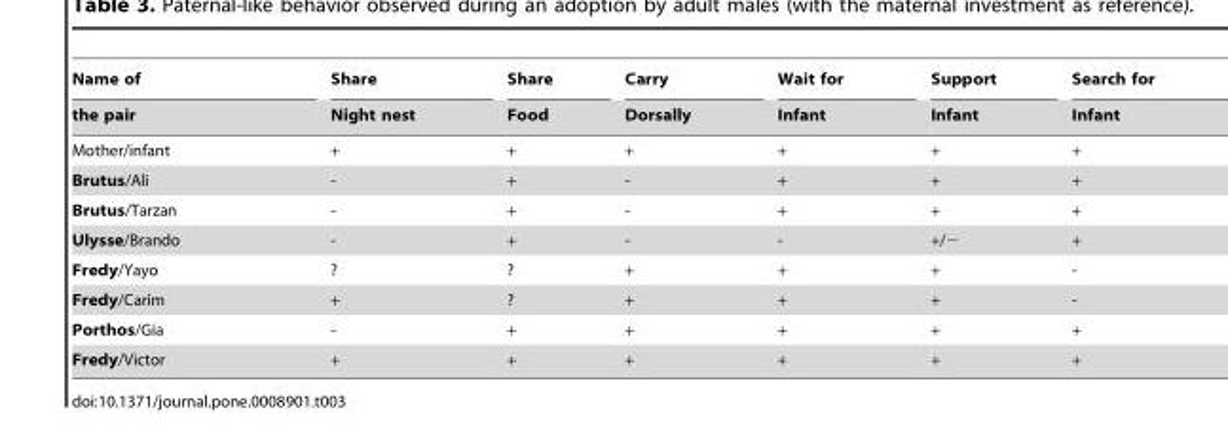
<table><thead><tr><td rowspan="2">Name of the pair</td><td rowspan="2">Share Night nest</td><td rowspan="2">Share Food</td><td rowspan="2">Carry Dorsally</td><td rowspan="2">Wait for Infant</td><td rowspan="2">Support Infant</td><td rowspan="2">Search for Infant</td></tr><tr></tr></thead><tbody><tr><td>Mother/infant</td><td>+</td><td>+</td><td>+</td><td>+</td><td>+</td><td>+</td></tr><tr><td>Brutus/Ali</td><td>-</td><td>+</td><td>-</td><td>+</td><td>+</td><td>+</td></tr><tr><td>Brutus/Tarzan</td><td>-</td><td>+</td><td>-</td><td>+</td><td>+</td><td>+</td></tr><tr><td>Ulysse/Brando</td><td>-</td><td>+</td><td>-</td><td>-</td><td>+/−</td><td>+</td></tr><tr><td>Fredy/Yayo</td><td>?</td><td>?</td><td>+</td><td>+</td><td>+</td><td>-</td></tr><tr><td>Fredy/Carim</td><td>+</td><td>?</td><td>+</td><td>+</td><td>+</td><td>-</td></tr><tr><td>Porthos/Gia</td><td>-</td><td>+</td><td>+</td><td>+</td><td>+</td><td>+</td></tr><tr><td>Fredy/Victor</td><td>+</td><td>+</td><td>+</td><td>+</td><td>+</td><td>+</td></tr></tbody></table>